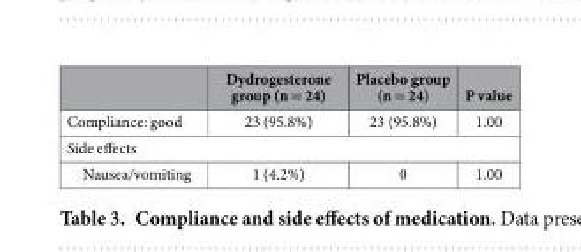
<table><thead><tr><td></td><td>Dydrogesterone group (n = 24)</td><td>Placebo group (n = 24)</td><td>P value</td></tr></thead><tbody><tr><td>Compliance: good</td><td>23 (95.8%)</td><td>23 (95.8%)</td><td>1.00</td></tr><tr><td colspan="4">Side effects</td></tr><tr><td>Nausea/vomiting</td><td>1 (4.2%)</td><td>0</td><td>1.00</td></tr></tbody></table>